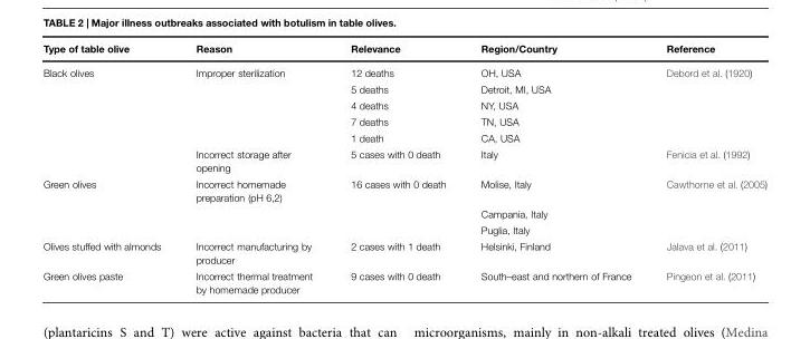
<table><thead><tr><td>Type of table olive</td><td>Reason</td><td>Relevance</td><td>Region/Country</td><td>Reference</td></tr></thead><tbody><tr><td rowspan="6">Black olives</td><td>Improper sterilization</td><td>12 deaths</td><td>OH, USA</td><td>Debord et al. (1920)</td></tr><tr><td></td><td>5 deaths</td><td>Detroit, MI, USA</td><td></td></tr><tr><td></td><td>4 deaths</td><td>NY, USA</td><td></td></tr><tr><td></td><td>7 deaths</td><td>TN, USA</td><td></td></tr><tr><td></td><td>1 death</td><td>CA, USA</td><td></td></tr><tr><td>Incorrect storage after opening</td><td>5 cases with 0 death</td><td>Italy</td><td>Fenicia et al. (1992)</td></tr><tr><td rowspan="3">Green olives</td><td>Incorrect homemade preparation (pH 6,2)</td><td>16 cases with 0 death</td><td>Molise, Italy</td><td>Cawthorne et al. (2005)</td></tr><tr><td></td><td></td><td>Campania, Italy</td><td></td></tr><tr><td></td><td></td><td>Puglia, Italy</td><td></td></tr><tr><td>Olives stuffed with almonds</td><td>Incorrect manufacturing by producer</td><td>2 cases with 1 death</td><td>Helsinki, Finland</td><td>Jalava et al. (2011)</td></tr><tr><td>Green olives paste</td><td>Incorrect thermal treatment by homemade producer</td><td>9 cases with 0 death</td><td>South–east and northern of France</td><td>Pingeon et al. (2011)</td></tr></tbody></table>